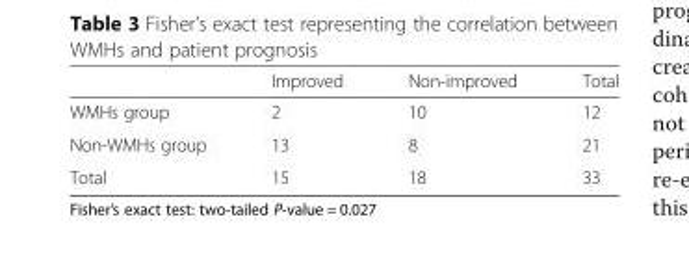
<table><thead><tr><td></td><td>Improved</td><td>Non-improved</td><td>Total</td></tr></thead><tbody><tr><td>WMHs group</td><td>2</td><td>10</td><td>12</td></tr><tr><td>Non-WMHs group</td><td>13</td><td>8</td><td>21</td></tr><tr><td>Total</td><td>15</td><td>18</td><td>33</td></tr></tbody></table>